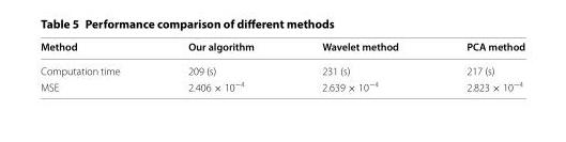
<table><thead><tr><td>Method</td><td>Our algorithm</td><td>Wavelet method</td><td>PCA method</td></tr></thead><tbody><tr><td>Computation time</td><td>209 (s)</td><td>231 (s)</td><td>217 (s)</td></tr><tr><td>MSE</td><td>2.406 × 10<sup>−4</sup></td><td>2.639 × 10<sup>−4</sup></td><td>2.823 × 10<sup>−4</sup></td></tr></tbody></table>